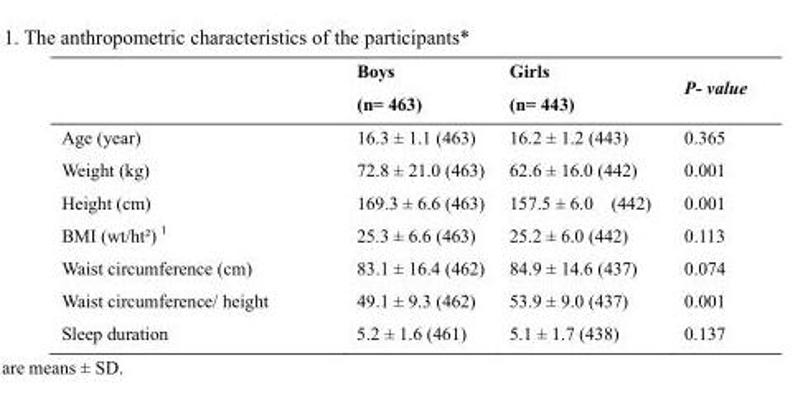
<table><thead><tr><td></td><td>Boys (n= 463)</td><td>Girls (n= 443)</td><td>P- value</td></tr></thead><tbody><tr><td>Age (year)</td><td>16.3 ± 1.1 (463)</td><td>16.2 ± 1.2 (443)</td><td>0.365</td></tr><tr><td>Weight (kg)</td><td>72.8 ± 21.0 (463)</td><td>62.6 ± 16.0 (442)</td><td>0.001</td></tr><tr><td>Height (cm)</td><td>169.3 ± 6.6 (463)</td><td>157.5 ± 6.0 (442)</td><td>0.001</td></tr><tr><td>BMI (wt/ht²) <sup>1</sup></td><td>25.3 ± 6.6 (463)</td><td>25.2 ± 6.0 (442)</td><td>0.113</td></tr><tr><td>Waist circumference (cm)</td><td>83.1 ± 16.4 (462)</td><td>84.9 ± 14.6 (437)</td><td>0.074</td></tr><tr><td>Waist circumference/ height</td><td>49.1 ± 9.3 (462)</td><td>53.9 ± 9.0 (437)</td><td>0.001</td></tr><tr><td>Sleep duration</td><td>5.2 ± 1.6 (461)</td><td>5.1 ± 1.7 (438)</td><td>0.137</td></tr></tbody></table>